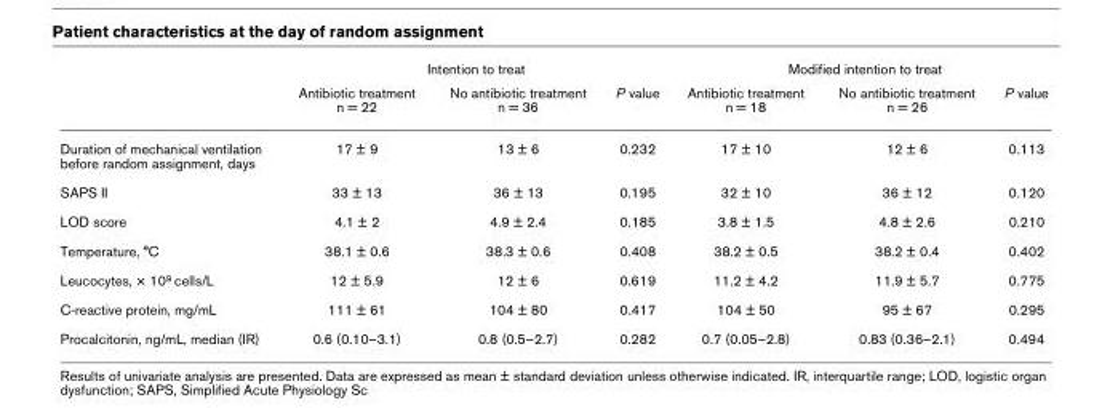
<table><thead><tr><td rowspan="2"></td><td colspan="3">Intention to treat</td><td colspan="3">Modified intention to treat</td></tr><tr><td>Antibiotic treatment n = 22</td><td>No antibiotic treatment n = 36</td><td>P value</td><td>Antibiotic treatment n = 18</td><td>No antibiotic treatment n = 26</td><td>P value</td></tr></thead><tbody><tr><td>Duration of mechanical ventilation before random assignment, days</td><td>17 ± 9</td><td>13 ± 6</td><td>0.232</td><td>17 ± 10</td><td>12 ± 6</td><td>0.113</td></tr><tr><td>SAPS II</td><td>33 ± 13</td><td>36 ± 13</td><td>0.195</td><td>32 ± 10</td><td>36 ± 12</td><td>0.120</td></tr><tr><td>LOD score</td><td>4.1 ± 2</td><td>4.9 ± 2.4</td><td>0.185</td><td>3.8 ± 1.5</td><td>4.8 ± 2.6</td><td>0.210</td></tr><tr><td>Temperature, °C</td><td>38.1 ± 0.6</td><td>38.3 ± 0.6</td><td>0.408</td><td>38.2 ± 0.5</td><td>38.2 ± 0.4</td><td>0.402</td></tr><tr><td>Leucocytes, × 10<sup>9</sup> cells/L</td><td>12 ± 5.9</td><td>12 ± 6</td><td>0.619</td><td>11.2 ± 4.2</td><td>11.9 ± 5.7</td><td>0.775</td></tr><tr><td>C-reactive protein, mg/mL</td><td>111 ± 61</td><td>104 ± 80</td><td>0.417</td><td>104 ± 50</td><td>95 ± 67</td><td>0.295</td></tr><tr><td>Procalcitonin, ng/mL, median (IR)</td><td>0.6 (0.10–3.1)</td><td>0.8 (0.5–2.7)</td><td>0.282</td><td>0.7 (0.05–2.8)</td><td>0.83 (0.36–2.1)</td><td>0.494</td></tr></tbody></table>